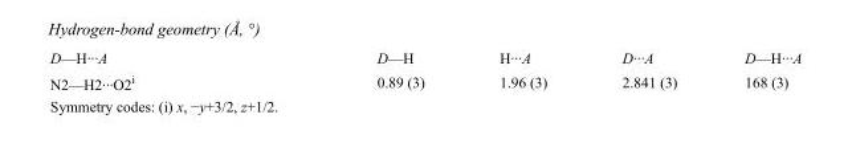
<table><tbody><tr><td>D—H···A</td><td>D—H</td><td>H···A</td><td>D···A</td><td>D—H···A</td></tr><tr><td>N2—H2···O2<sup>i</sup></td><td>0.89 (3)</td><td>1.96 (3)</td><td>2.841 (3)</td><td>168 (3)</td></tr></tbody></table>